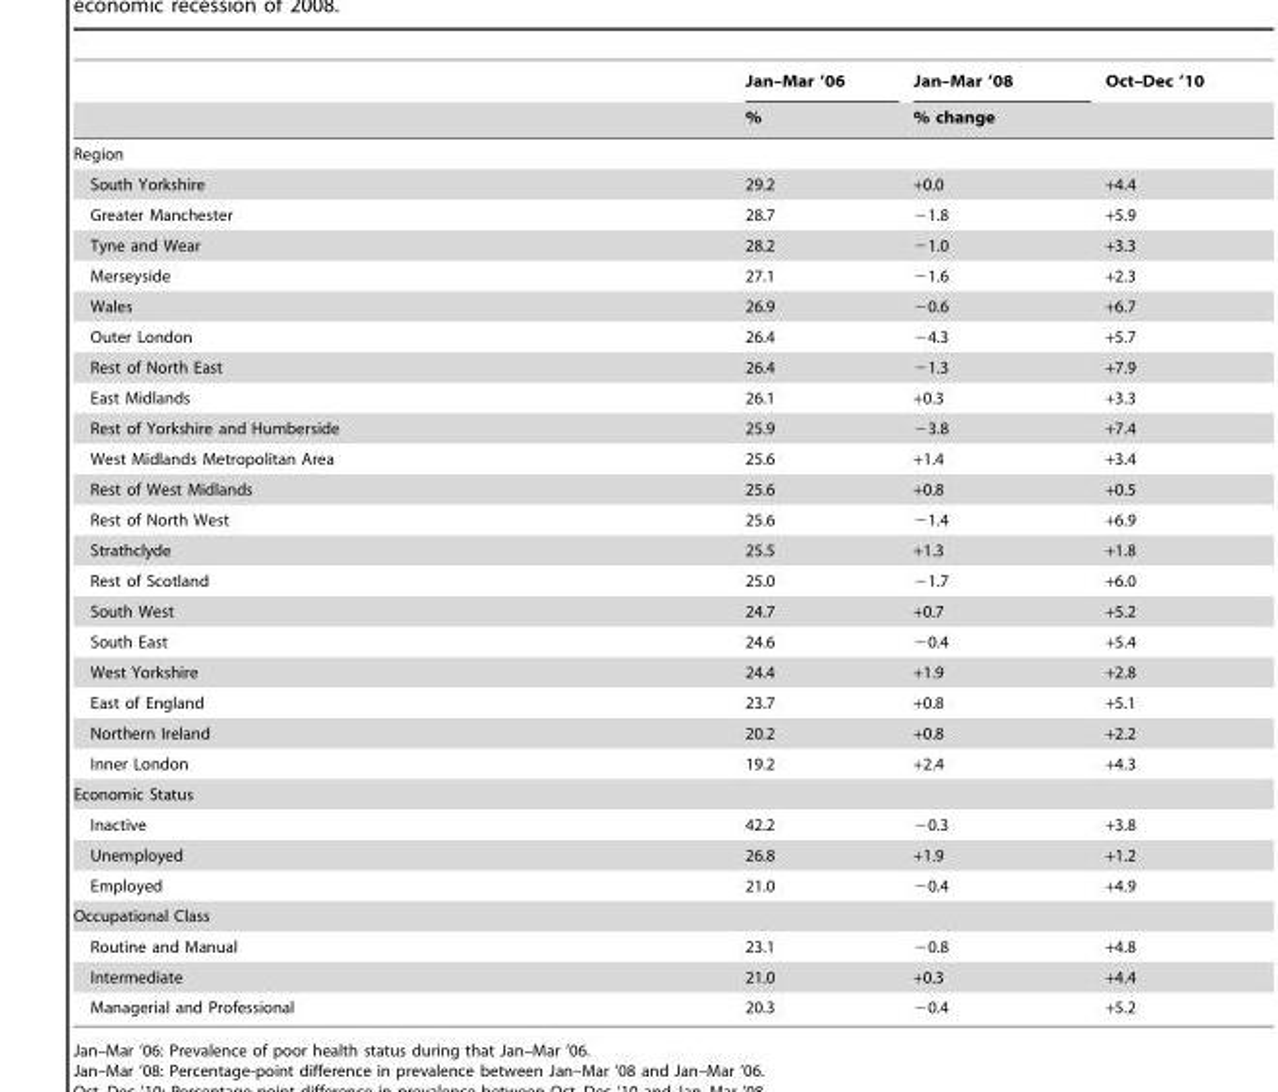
<table><thead><tr><td rowspan="2"></td><td rowspan="2">Jan–Mar ’06 %</td><td>Jan–Mar ’08</td><td>Oct–Dec ’10</td></tr><tr><td colspan="2">% change</td></tr></thead><tbody><tr><td colspan="4">Region</td></tr><tr><td>South Yorkshire</td><td>29.2</td><td>+0.0</td><td>+4.4</td></tr><tr><td>Greater Manchester</td><td>28.7</td><td>−1.8</td><td>+5.9</td></tr><tr><td>Tyne and Wear</td><td>28.2</td><td>−1.0</td><td>+3.3</td></tr><tr><td>Merseyside</td><td>27.1</td><td>−1.6</td><td>+2.3</td></tr><tr><td>Wales</td><td>26.9</td><td>−0.6</td><td>+6.7</td></tr><tr><td>Outer London</td><td>26.4</td><td>−4.3</td><td>+5.7</td></tr><tr><td>Rest of North East</td><td>26.4</td><td>−1.3</td><td>+7.9</td></tr><tr><td>East Midlands</td><td>26.1</td><td>+0.3</td><td>+3.3</td></tr><tr><td>Rest of Yorkshire and Humberside</td><td>25.9</td><td>−3.8</td><td>+7.4</td></tr><tr><td>West Midlands Metropolitan Area</td><td>25.6</td><td>+1.4</td><td>+3.4</td></tr><tr><td>Rest of West Midlands</td><td>25.6</td><td>+0.8</td><td>+0.5</td></tr><tr><td>Rest of North West</td><td>25.6</td><td>−1.4</td><td>+6.9</td></tr><tr><td>Strathclyde</td><td>25.5</td><td>+1.3</td><td>+1.8</td></tr><tr><td>Rest of Scotland</td><td>25.0</td><td>−1.7</td><td>+6.0</td></tr><tr><td>South West</td><td>24.7</td><td>+0.7</td><td>+5.2</td></tr><tr><td>South East</td><td>24.6</td><td>−0.4</td><td>+5.4</td></tr><tr><td>West Yorkshire</td><td>24.4</td><td>+1.9</td><td>+2.8</td></tr><tr><td>East of England</td><td>23.7</td><td>+0.8</td><td>+5.1</td></tr><tr><td>Northern Ireland</td><td>20.2</td><td>+0.8</td><td>+2.2</td></tr><tr><td>Inner London</td><td>19.2</td><td>+2.4</td><td>+4.3</td></tr><tr><td colspan="4">Economic Status</td></tr><tr><td>Inactive</td><td>42.2</td><td>−0.3</td><td>+3.8</td></tr><tr><td>Unemployed</td><td>26.8</td><td>+1.9</td><td>+1.2</td></tr><tr><td>Employed</td><td>21.0</td><td>−0.4</td><td>+4.9</td></tr><tr><td colspan="4">Occupational Class</td></tr><tr><td>Routine and Manual</td><td>23.1</td><td>−0.8</td><td>+4.8</td></tr><tr><td>Intermediate</td><td>21.0</td><td>+0.3</td><td>+4.4</td></tr><tr><td>Managerial and Professional</td><td>20.3</td><td>−0.4</td><td>+5.2</td></tr></tbody></table>